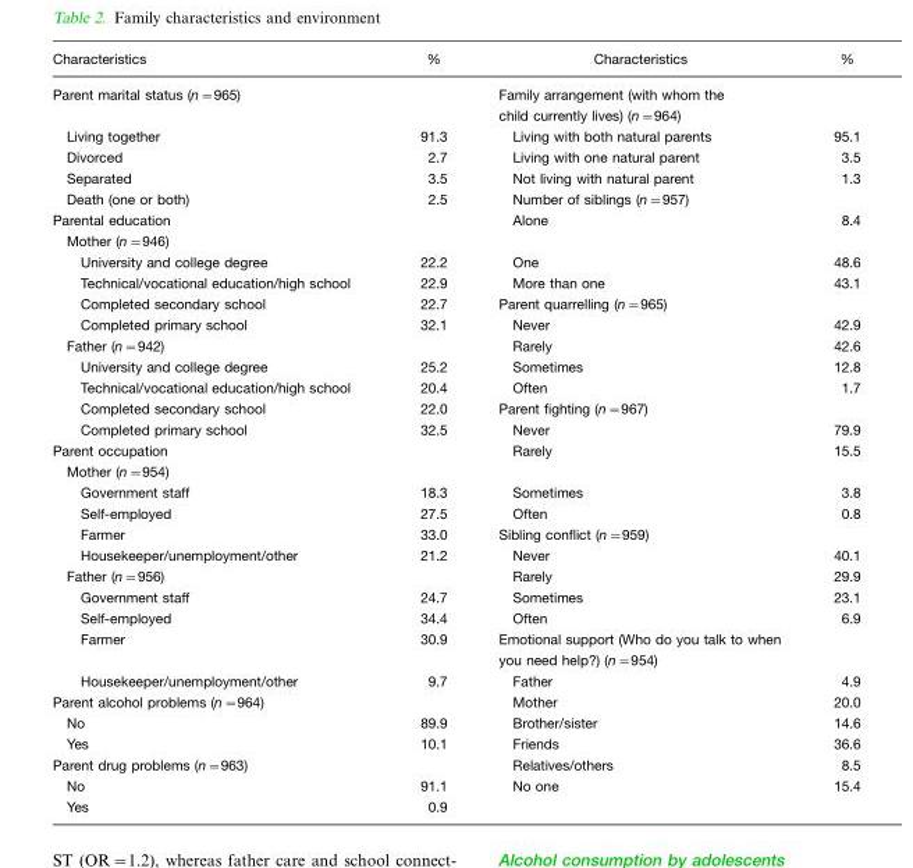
<table><thead><tr><td>Characteristics</td><td>%</td><td>Characteristics</td><td>%</td></tr></thead><tbody><tr><td>Parent marital status (n=965)</td><td></td><td>Family arrangement (with whom the child currently lives) (n=964)</td><td></td></tr><tr><td>Living together</td><td>91.3</td><td>Living with both natural parents</td><td>95.1</td></tr><tr><td>Divorced</td><td>2.7</td><td>Living with one natural parent</td><td>3.5</td></tr><tr><td>Separated</td><td>3.5</td><td>Not living with natural parent</td><td>1.3</td></tr><tr><td>Death (one or both)</td><td>2.5</td><td>Number of siblings (n=957)</td><td></td></tr><tr><td>Parental education</td><td></td><td>Alone</td><td>8.4</td></tr><tr><td colspan="4">Mother (n=946)</td></tr><tr><td>University and college degree</td><td>22.2</td><td>One</td><td>48.6</td></tr><tr><td>Technical/vocational education/high school</td><td>22.9</td><td>More than one</td><td>43.1</td></tr><tr><td>Completed secondary school</td><td>22.7</td><td>Parent quarrelling (n=965)</td><td></td></tr><tr><td>Completed primary school</td><td>32.1</td><td>Never</td><td>42.9</td></tr><tr><td>Father (n=942)</td><td></td><td>Rarely</td><td>42.6</td></tr><tr><td>University and college degree</td><td>25.2</td><td>Sometimes</td><td>12.8</td></tr><tr><td>Technical/vocational education/high school</td><td>20.4</td><td>Often</td><td>1.7</td></tr><tr><td>Completed secondary school</td><td>22.0</td><td>Parent fighting (n=967)</td><td></td></tr><tr><td>Completed primary school</td><td>32.5</td><td>Never</td><td>79.9</td></tr><tr><td>Parent occupation</td><td></td><td>Rarely</td><td>15.5</td></tr><tr><td colspan="4">Mother (n=954)</td></tr><tr><td>Government staff</td><td>18.3</td><td>Sometimes</td><td>3.8</td></tr><tr><td>Self-employed</td><td>27.5</td><td>Often</td><td>0.8</td></tr><tr><td>Farmer</td><td>33.0</td><td>Sibling conflict (n=959)</td><td></td></tr><tr><td>Housekeeper/unemployment/other</td><td>21.2</td><td>Never</td><td>40.1</td></tr><tr><td>Father (n=956)</td><td></td><td>Rarely</td><td>29.9</td></tr><tr><td>Government staff</td><td>24.7</td><td>Sometimes</td><td>23.1</td></tr><tr><td>Self-employed</td><td>34.4</td><td>Often</td><td>6.9</td></tr><tr><td>Farmer</td><td>30.9</td><td>Emotional support (Who do you talk to when you need help?) (n=954)</td><td></td></tr><tr><td>Housekeeper/unemployment/other</td><td>9.7</td><td>Father</td><td>4.9</td></tr><tr><td>Parent alcohol problems (n=964)</td><td></td><td>Mother</td><td>20.0</td></tr><tr><td>No</td><td>89.9</td><td>Brother/sister</td><td>14.6</td></tr><tr><td>Yes</td><td>10.1</td><td>Friends</td><td>36.6</td></tr><tr><td>Parent drug problems (n=963)</td><td></td><td>Relatives/others</td><td>8.5</td></tr><tr><td>No</td><td>91.1</td><td>No one</td><td>15.4</td></tr><tr><td>Yes</td><td>0.9</td><td></td><td></td></tr></tbody></table>